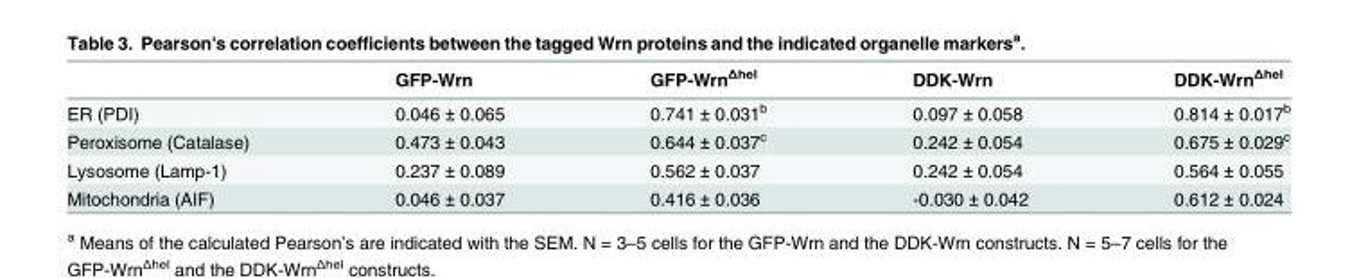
<table><thead><tr><td></td><td>GFP-Wrn</td><td>GFP-Wrn<sup>Δhel</sup></td><td>DDK-Wrn</td><td>DDK-Wrn<sup>Δhel</sup></td></tr></thead><tbody><tr><td>ER (PDI)</td><td>0.046 ± 0.065</td><td>0.741 ± 0.031<sup>b</sup></td><td>0.097 ± 0.058</td><td>0.814 ± 0.017<sup>b</sup></td></tr><tr><td>Peroxisome (Catalase)</td><td>0.473 ± 0.043</td><td>0.644 ± 0.037<sup>c</sup></td><td>0.242 ± 0.054</td><td>0.675 ± 0.029<sup>c</sup></td></tr><tr><td>Lysosome (Lamp-1)</td><td>0.237 ± 0.089</td><td>0.562 ± 0.037</td><td>0.242 ± 0.054</td><td>0.564 ± 0.055</td></tr><tr><td>Mitochondria (AIF)</td><td>0.046 ± 0.037</td><td>0.416 ± 0.036</td><td>-0.030 ± 0.042</td><td>0.612 ± 0.024</td></tr></tbody></table>